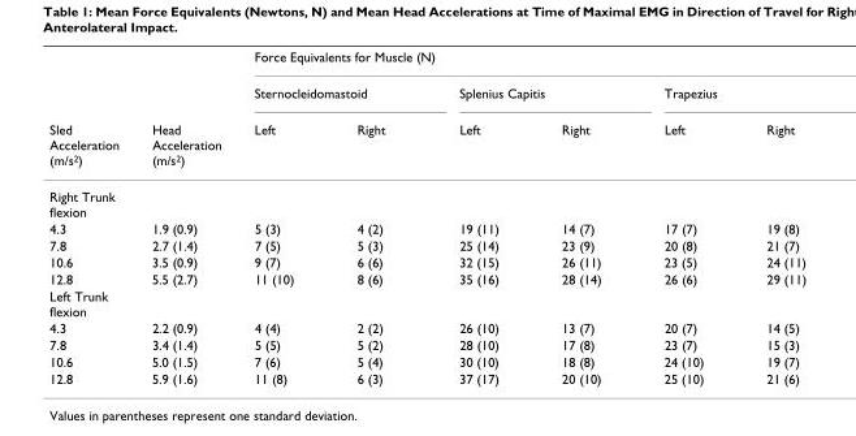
<table><thead><tr><td rowspan="3">Sled Acceleration (m/s<sup>2</sup>)</td><td rowspan="3">Head Acceleration (m/s<sup>2</sup>)</td><td colspan="6">Force Equivalents for Muscle (N)</td></tr><tr><td colspan="2">Sternocleidomastoid</td><td colspan="2">Splenius Capitis</td><td colspan="2">Trapezius</td></tr><tr><td>Left</td><td>Right</td><td>Left</td><td>Right</td><td>Left</td><td>Right</td></tr></thead><tbody><tr><td colspan="8">Right Trunk flexion</td></tr><tr><td>4.3</td><td>1.9 (0.9)</td><td>5 (3)</td><td>4 (2)</td><td>19 (11)</td><td>14 (7)</td><td>17 (7)</td><td>19 (8)</td></tr><tr><td>7.8</td><td>2.7 (1.4)</td><td>7 (5)</td><td>5 (3)</td><td>25 (14)</td><td>23 (9)</td><td>20 (8)</td><td>21 (7)</td></tr><tr><td>10.6</td><td>3.5 (0.9)</td><td>9 (7)</td><td>6 (6)</td><td>32 (15)</td><td>26 (11)</td><td>23 (5)</td><td>24 (11)</td></tr><tr><td>12.8</td><td>5.5 (2.7)</td><td>11 (10)</td><td>8 (6)</td><td>35 (16)</td><td>28 (14)</td><td>26 (6)</td><td>29 (11)</td></tr><tr><td colspan="8">Left Trunk flexion</td></tr><tr><td>4.3</td><td>2.2 (0.9)</td><td>4 (4)</td><td>2 (2)</td><td>26 (10)</td><td>13 (7)</td><td>20 (7)</td><td>14 (5)</td></tr><tr><td>7.8</td><td>3.4 (1.4)</td><td>5 (5)</td><td>5 (2)</td><td>28 (10)</td><td>17 (8)</td><td>23 (7)</td><td>15 (3)</td></tr><tr><td>10.6</td><td>5.0 (1.5)</td><td>7 (6)</td><td>5 (4)</td><td>30 (10)</td><td>18 (8)</td><td>24 (10)</td><td>19 (7)</td></tr><tr><td>12.8</td><td>5.9 (1.6)</td><td>11 (8)</td><td>6 (3)</td><td>37 (17)</td><td>20 (10)</td><td>25 (10)</td><td>21 (6)</td></tr></tbody></table>